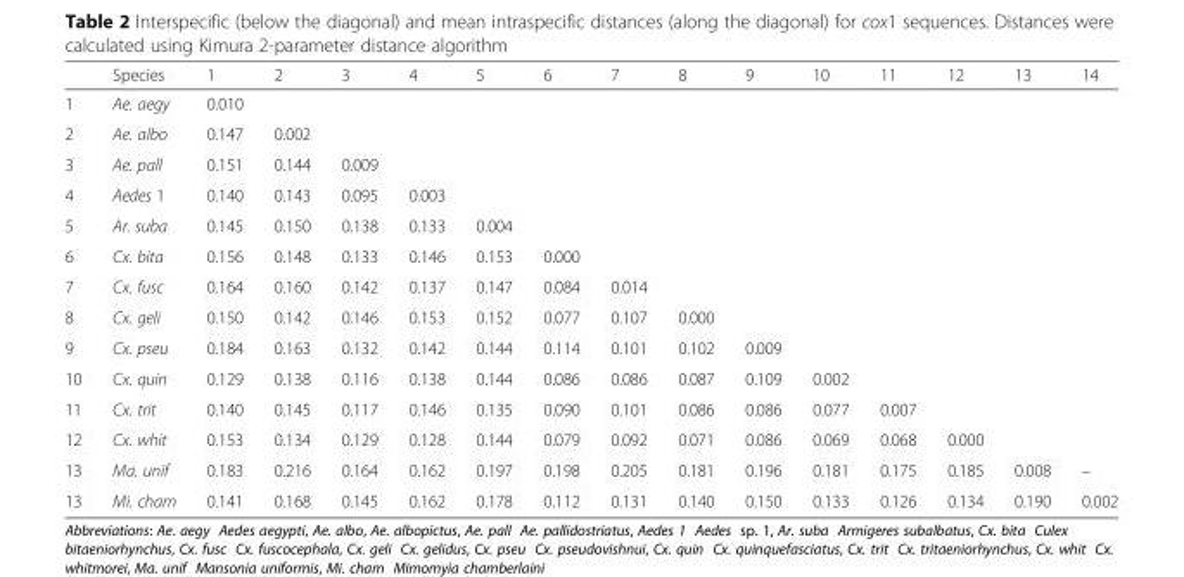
<table><thead><tr><td></td><td>Species</td><td>1</td><td>2</td><td>3</td><td>4</td><td>5</td><td>6</td><td>7</td><td>8</td><td>9</td><td>10</td><td>11</td><td>12</td><td>13</td><td>14</td></tr></thead><tbody><tr><td>1</td><td>Ae. aegy</td><td>0.010</td><td></td><td></td><td></td><td></td><td></td><td></td><td></td><td></td><td></td><td></td><td></td><td></td><td></td></tr><tr><td>2</td><td>Ae. albo</td><td>0.147</td><td>0.002</td><td></td><td></td><td></td><td></td><td></td><td></td><td></td><td></td><td></td><td></td><td></td><td></td></tr><tr><td>3</td><td>Ae. pall</td><td>0.151</td><td>0.144</td><td>0.009</td><td></td><td></td><td></td><td></td><td></td><td></td><td></td><td></td><td></td><td></td><td></td></tr><tr><td>4</td><td>Aedes 1</td><td>0.140</td><td>0.143</td><td>0.095</td><td>0.003</td><td></td><td></td><td></td><td></td><td></td><td></td><td></td><td></td><td></td><td></td></tr><tr><td>5</td><td>Ar. suba</td><td>0.145</td><td>0.150</td><td>0.138</td><td>0.133</td><td>0.004</td><td></td><td></td><td></td><td></td><td></td><td></td><td></td><td></td><td></td></tr><tr><td>6</td><td>Cx. bita</td><td>0.156</td><td>0.148</td><td>0.133</td><td>0.146</td><td>0.153</td><td>0.000</td><td></td><td></td><td></td><td></td><td></td><td></td><td></td><td></td></tr><tr><td>7</td><td>Cx. fusc</td><td>0.164</td><td>0.160</td><td>0.142</td><td>0.137</td><td>0.147</td><td>0.084</td><td>0.014</td><td></td><td></td><td></td><td></td><td></td><td></td><td></td></tr><tr><td>8</td><td>Cx. geli</td><td>0.150</td><td>0.142</td><td>0.146</td><td>0.153</td><td>0.152</td><td>0.077</td><td>0.107</td><td>0.000</td><td></td><td></td><td></td><td></td><td></td><td></td></tr><tr><td>9</td><td>Cx. pseu</td><td>0.184</td><td>0.163</td><td>0.132</td><td>0.142</td><td>0.144</td><td>0.114</td><td>0.101</td><td>0.102</td><td>0.009</td><td></td><td></td><td></td><td></td><td></td></tr><tr><td>10</td><td>Cx. quin</td><td>0.129</td><td>0.138</td><td>0.116</td><td>0.138</td><td>0.144</td><td>0.086</td><td>0.086</td><td>0.087</td><td>0.109</td><td>0.002</td><td></td><td></td><td></td><td></td></tr><tr><td>11</td><td>Cx. trit</td><td>0.140</td><td>0.145</td><td>0.117</td><td>0.146</td><td>0.135</td><td>0.090</td><td>0.101</td><td>0.086</td><td>0.086</td><td>0.077</td><td>0.007</td><td></td><td></td><td></td></tr><tr><td>12</td><td>Cx. whit</td><td>0.153</td><td>0.134</td><td>0.129</td><td>0.128</td><td>0.144</td><td>0.079</td><td>0.092</td><td>0.071</td><td>0.086</td><td>0.069</td><td>0.068</td><td>0.000</td><td></td><td></td></tr><tr><td>13</td><td>Ma. unif</td><td>0.183</td><td>0.216</td><td>0.164</td><td>0.162</td><td>0.197</td><td>0.198</td><td>0.205</td><td>0.181</td><td>0.196</td><td>0.181</td><td>0.175</td><td>0.185</td><td>0.008</td><td>–</td></tr><tr><td>13</td><td>Mi. cham</td><td>0.141</td><td>0.168</td><td>0.145</td><td>0.162</td><td>0.178</td><td>0.112</td><td>0.131</td><td>0.140</td><td>0.150</td><td>0.133</td><td>0.126</td><td>0.134</td><td>0.190</td><td>0.002</td></tr></tbody></table>